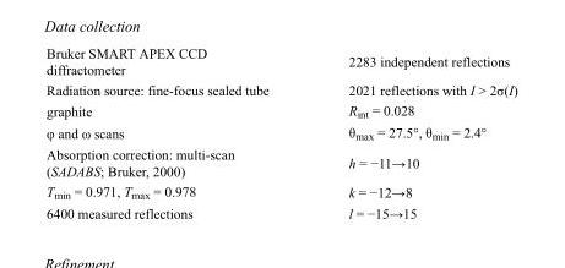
<table><tbody><tr><td>Bruker SMART APEX CCD diffractometer</td><td>2283 independent reflections</td></tr><tr><td>Radiation source: fine-focus sealed tube</td><td>2021 reflections with I &gt; 2σ(I)</td></tr><tr><td>graphite</td><td>R<sub>int</sub> = 0.028</td></tr><tr><td>φ and ω scans</td><td>θ<sub>max</sub> = 27.5°, θ<sub>min</sub> = 2.4°</td></tr><tr><td>Absorption correction: multi-scan (SADABS; Bruker, 2000)</td><td>h = −11→10</td></tr><tr><td>T<sub>min</sub> = 0.971, T<sub>max</sub> = 0.978</td><td>k = −12→8</td></tr><tr><td>6400 measured reflections</td><td>l = −15→15</td></tr></tbody></table>